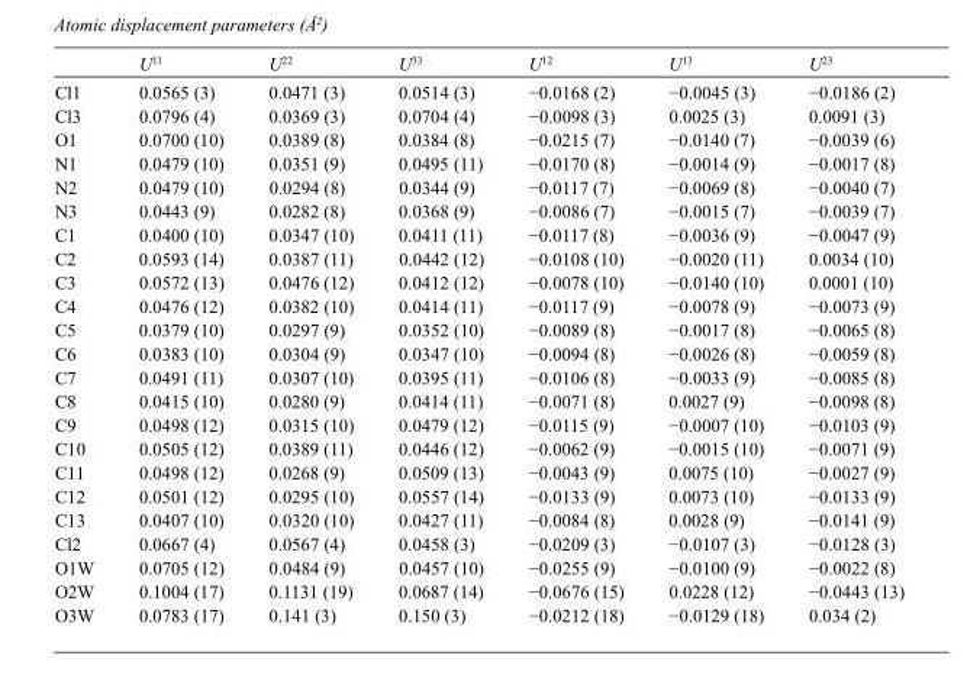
<table><thead><tr><td></td><td>U<sup>11</sup></td><td>U<sup>22</sup></td><td>U<sup>33</sup></td><td>U<sup>12</sup></td><td>U<sup>13</sup></td><td>U<sup>23</sup></td></tr></thead><tbody><tr><td>Cl1</td><td>0.0565 (3)</td><td>0.0471 (3)</td><td>0.0514 (3)</td><td>−0.0168 (2)</td><td>−0.0045 (3)</td><td>−0.0186 (2)</td></tr><tr><td>Cl3</td><td>0.0796 (4)</td><td>0.0369 (3)</td><td>0.0704 (4)</td><td>−0.0098 (3)</td><td>0.0025 (3)</td><td>0.0091 (3)</td></tr><tr><td>O1</td><td>0.0700 (10)</td><td>0.0389 (8)</td><td>0.0384 (8)</td><td>−0.0215 (7)</td><td>−0.0140 (7)</td><td>−0.0039 (6)</td></tr><tr><td>N1</td><td>0.0479 (10)</td><td>0.0351 (9)</td><td>0.0495 (11)</td><td>−0.0170 (8)</td><td>−0.0014 (9)</td><td>−0.0017 (8)</td></tr><tr><td>N2</td><td>0.0479 (10)</td><td>0.0294 (8)</td><td>0.0344 (9)</td><td>−0.0117 (7)</td><td>−0.0069 (8)</td><td>−0.0040 (7)</td></tr><tr><td>N3</td><td>0.0443 (9)</td><td>0.0282 (8)</td><td>0.0368 (9)</td><td>−0.0086 (7)</td><td>−0.0015 (7)</td><td>−0.0039 (7)</td></tr><tr><td>C1</td><td>0.0400 (10)</td><td>0.0347 (10)</td><td>0.0411 (11)</td><td>−0.0117 (8)</td><td>−0.0036 (9)</td><td>−0.0047 (9)</td></tr><tr><td>C2</td><td>0.0593 (14)</td><td>0.0387 (11)</td><td>0.0442 (12)</td><td>−0.0108 (10)</td><td>−0.0020 (11)</td><td>0.0034 (10)</td></tr><tr><td>C3</td><td>0.0572 (13)</td><td>0.0476 (12)</td><td>0.0412 (12)</td><td>−0.0078 (10)</td><td>−0.0140 (10)</td><td>0.0001 (10)</td></tr><tr><td>C4</td><td>0.0476 (12)</td><td>0.0382 (10)</td><td>0.0414 (11)</td><td>−0.0117 (9)</td><td>−0.0078 (9)</td><td>−0.0073 (9)</td></tr><tr><td>C5</td><td>0.0379 (10)</td><td>0.0297 (9)</td><td>0.0352 (10)</td><td>−0.0089 (8)</td><td>−0.0017 (8)</td><td>−0.0065 (8)</td></tr><tr><td>C6</td><td>0.0383 (10)</td><td>0.0304 (9)</td><td>0.0347 (10)</td><td>−0.0094 (8)</td><td>−0.0026 (8)</td><td>−0.0059 (8)</td></tr><tr><td>C7</td><td>0.0491 (11)</td><td>0.0307 (10)</td><td>0.0395 (11)</td><td>−0.0106 (8)</td><td>−0.0033 (9)</td><td>−0.0085 (8)</td></tr><tr><td>C8</td><td>0.0415 (10)</td><td>0.0280 (9)</td><td>0.0414 (11)</td><td>−0.0071 (8)</td><td>0.0027 (9)</td><td>−0.0098 (8)</td></tr><tr><td>C9</td><td>0.0498 (12)</td><td>0.0315 (10)</td><td>0.0479 (12)</td><td>−0.0115 (9)</td><td>−0.0007 (10)</td><td>−0.0103 (9)</td></tr><tr><td>C10</td><td>0.0505 (12)</td><td>0.0389 (11)</td><td>0.0446 (12)</td><td>−0.0062 (9)</td><td>−0.0015 (10)</td><td>−0.0071 (9)</td></tr><tr><td>C11</td><td>0.0498 (12)</td><td>0.0268 (9)</td><td>0.0509 (13)</td><td>−0.0043 (9)</td><td>0.0075 (10)</td><td>−0.0027 (9)</td></tr><tr><td>C12</td><td>0.0501 (12)</td><td>0.0295 (10)</td><td>0.0557 (14)</td><td>−0.0133 (9)</td><td>0.0073 (10)</td><td>−0.0133 (9)</td></tr><tr><td>C13</td><td>0.0407 (10)</td><td>0.0320 (10)</td><td>0.0427 (11)</td><td>−0.0084 (8)</td><td>0.0028 (9)</td><td>−0.0141 (9)</td></tr><tr><td>Cl2</td><td>0.0667 (4)</td><td>0.0567 (4)</td><td>0.0458 (3)</td><td>−0.0209 (3)</td><td>−0.0107 (3)</td><td>−0.0128 (3)</td></tr><tr><td>O1W</td><td>0.0705 (12)</td><td>0.0484 (9)</td><td>0.0457 (10)</td><td>−0.0255 (9)</td><td>−0.0100 (9)</td><td>−0.0022 (8)</td></tr><tr><td>O2W</td><td>0.1004 (17)</td><td>0.1131 (19)</td><td>0.0687 (14)</td><td>−0.0676 (15)</td><td>0.0228 (12)</td><td>−0.0443 (13)</td></tr><tr><td>O3W</td><td>0.0783 (17)</td><td>0.141 (3)</td><td>0.150 (3)</td><td>−0.0212 (18)</td><td>−0.0129 (18)</td><td>0.034 (2)</td></tr></tbody></table>